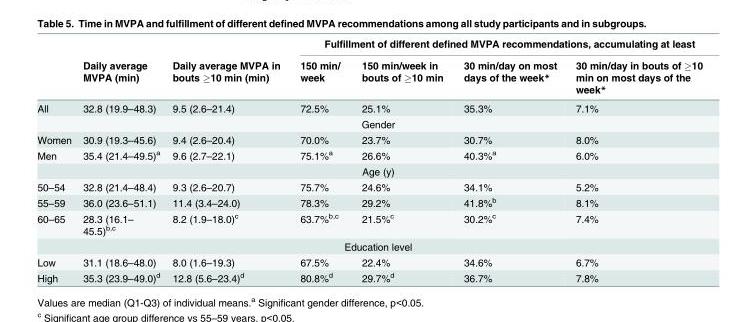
<table><thead><tr><td rowspan="2"></td><td rowspan="2">Daily average MVPA (min)</td><td rowspan="2">Daily average MVPA in bouts ≥10 min (min)</td><td colspan="4">Fulfillment of different defined MVPA recommendations, accumulating at least</td></tr><tr><td>150 min/ week</td><td>150 min/week in bouts of ≥10 min</td><td>30 min/day on most days of the week*</td><td>30 min/day in bouts of ≥10 min on most days of the week*</td></tr></thead><tbody><tr><td>All</td><td>32.8 (19.9–48.3)</td><td>9.5 (2.6–21.4)</td><td>72.5%</td><td>25.1%</td><td>35.3%</td><td>7.1%</td></tr><tr><td colspan="7">Gender</td></tr><tr><td>Women</td><td>30.9 (19.3–45.6)</td><td>9.4 (2.6–20.4)</td><td>70.0%</td><td>23.7%</td><td>30.7%</td><td>8.0%</td></tr><tr><td>Men</td><td>35.4 (21.4–49.5)<sup>a</sup></td><td>9.6 (2.7–22.1)</td><td>75.1%<sup>a</sup></td><td>26.6%</td><td>40.3%<sup>a</sup></td><td>6.0%</td></tr><tr><td colspan="7">Age (y)</td></tr><tr><td>50–54</td><td>32.8 (21.4–48.4)</td><td>9.3 (2.6–20.7)</td><td>75.7%</td><td>24.6%</td><td>34.1%</td><td>5.2%</td></tr><tr><td>55–59</td><td>36.0 (23.6–51.1)</td><td>11.4 (3.4–24.0)</td><td>78.3%</td><td>29.2%</td><td>41.8%<sup>b</sup></td><td>8.1%</td></tr><tr><td>60–65</td><td>28.3 (16.1– 45.5)<sup>b,c</sup></td><td>8.2 (1.9–18.0)<sup>c</sup></td><td>63.7%<sup>b,c</sup></td><td>21.5%<sup>c</sup></td><td>30.2%<sup>c</sup></td><td>7.4%</td></tr><tr><td colspan="7">Education level</td></tr><tr><td>Low</td><td>31.1 (18.6–48.0)</td><td>8.0 (1.6–19.3)</td><td>67.5%</td><td>22.4%</td><td>34.6%</td><td>6.7%</td></tr><tr><td>High</td><td>35.3 (23.9–49.0)<sup>d</sup></td><td>12.8 (5.6–23.4)<sup>d</sup></td><td>80.8%<sup>d</sup></td><td>29.7%<sup>d</sup></td><td>36.7%</td><td>7.8%</td></tr></tbody></table>